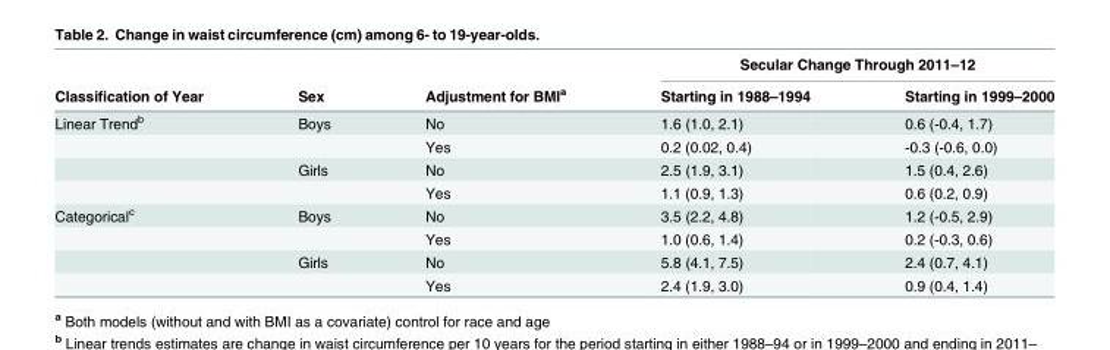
<table><thead><tr><td rowspan="2">Classification of Year</td><td rowspan="2">Sex</td><td rowspan="2">Adjustment for BMI<sup>a</sup></td><td colspan="2">Secular Change Through 2011–12</td></tr><tr><td>Starting in 1988–1994</td><td>Starting in 1999–2000</td></tr></thead><tbody><tr><td rowspan="4">Linear Trend<sup>b</sup></td><td>Boys</td><td>No</td><td>1.6 (1.0, 2.1)</td><td>0.6 (-0.4, 1.7)</td></tr><tr><td></td><td>Yes</td><td>0.2 (0.02, 0.4)</td><td>-0.3 (-0.6, 0.0)</td></tr><tr><td>Girls</td><td>No</td><td>2.5 (1.9, 3.1)</td><td>1.5 (0.4, 2.6)</td></tr><tr><td></td><td>Yes</td><td>1.1 (0.9, 1.3)</td><td>0.6 (0.2, 0.9)</td></tr><tr><td rowspan="4">Categorical<sup>c</sup></td><td>Boys</td><td>No</td><td>3.5 (2.2, 4.8)</td><td>1.2 (-0.5, 2.9)</td></tr><tr><td></td><td>Yes</td><td>1.0 (0.6, 1.4)</td><td>0.2 (-0.3, 0.6)</td></tr><tr><td>Girls</td><td>No</td><td>5.8 (4.1, 7.5)</td><td>2.4 (0.7, 4.1)</td></tr><tr><td></td><td>Yes</td><td>2.4 (1.9, 3.0)</td><td>0.9 (0.4, 1.4)</td></tr></tbody></table>